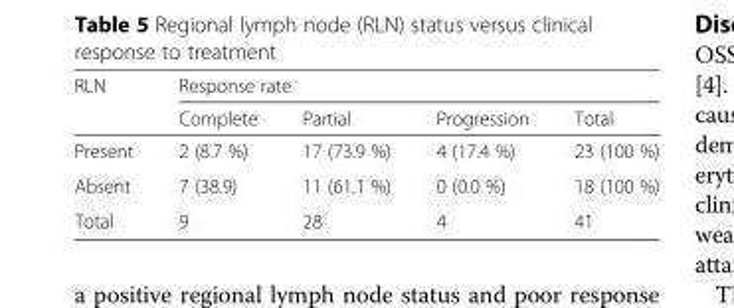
<table><thead><tr><td rowspan="2">RLN</td><td colspan="4">Response rate</td></tr><tr><td>Complete</td><td>Partial</td><td>Progression</td><td>Total</td></tr></thead><tbody><tr><td>Present</td><td>2 (8.7 %)</td><td>17 (73.9 %)</td><td>4 (17.4 %)</td><td>23 (100 %)</td></tr><tr><td>Absent</td><td>7 (38.9)</td><td>11 (61.1 %)</td><td>0 (0.0 %)</td><td>18 (100 %)</td></tr><tr><td>Total</td><td>9</td><td>28</td><td>4</td><td>41</td></tr></tbody></table>